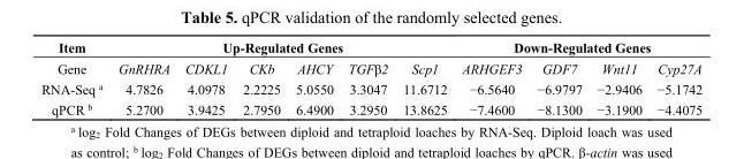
<table><thead><tr><td rowspan="2">Item Gene</td><td colspan="6">Up-Regulated Genes</td><td colspan="4">Down-Regulated Genes</td></tr><tr><td>GnRHRA</td><td>CDKL1</td><td>CKb</td><td>AHCY</td><td>TGFβ2</td><td>Scp1</td><td>ARHGEF3</td><td>GDF7</td><td>Wnt11</td><td>Cyp27A</td></tr></thead><tbody><tr><td>RNA-Seq <sup>a</sup></td><td>4.7826</td><td>4.0978</td><td>2.2225</td><td>5.0550</td><td>3.3047</td><td>11.6712</td><td>−6.5640</td><td>−6.9797</td><td>−2.9406</td><td>−5.1742</td></tr><tr><td>qPCR <sup>b</sup></td><td>5.2700</td><td>3.9425</td><td>2.7950</td><td>6.4900</td><td>3.2950</td><td>13.8625</td><td>−7.4600</td><td>−8.1300</td><td>−3.1900</td><td>−4.4075</td></tr></tbody></table>